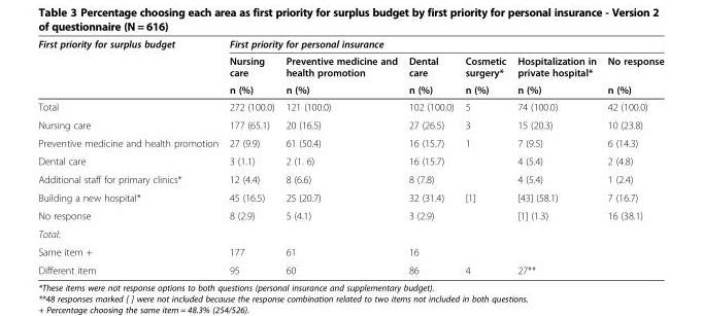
<table><thead><tr><td rowspan="3">First priority for surplus budget</td><td colspan="6">First priority for personal insurance</td></tr><tr><td rowspan="2">Nursing care n (%)</td><td rowspan="2">Preventive medicine and health promotion n (%)</td><td rowspan="2">Dental care n (%)</td><td rowspan="2">Cosmetic surgery* n (%)</td><td rowspan="2">Hospitalization in private hospital* n (%)</td><td rowspan="2">No response n (%)</td></tr><tr></tr></thead><tbody><tr><td>Total</td><td>272 (100.0)</td><td>121 (100.0)</td><td>102 (100.0)</td><td>5</td><td>74 (100.0)</td><td>42 (100.0)</td></tr><tr><td>Nursing care</td><td>177 (65.1)</td><td>20 (16.5)</td><td>27 (26.5)</td><td>3</td><td>15 (20.3)</td><td>10 (23.8)</td></tr><tr><td>Preventive medicine and health promotion</td><td>27 (9.9)</td><td>61 (50.4)</td><td>16 (15.7)</td><td>1</td><td>7 (9.5)</td><td>6 (14.3)</td></tr><tr><td>Dental care</td><td>3 (1.1)</td><td>2 (1. 6)</td><td>16 (15.7)</td><td></td><td>4 (5.4)</td><td>2 (4.8)</td></tr><tr><td>Additional staff for primary clinics*</td><td>12 (4.4)</td><td>8 (6.6)</td><td>8 (7.8)</td><td></td><td>4 (5.4)</td><td>1 (2.4)</td></tr><tr><td>Building a new hospital*</td><td>45 (16.5)</td><td>25 (20.7)</td><td>32 (31.4)</td><td>[1]</td><td>[43] (58.1)</td><td>7 (16.7)</td></tr><tr><td>No response</td><td>8 (2.9)</td><td>5 (4.1)</td><td>3 (2.9)</td><td></td><td>[1] (1.3)</td><td>16 (38.1)</td></tr><tr><td colspan="7">Total:</td></tr><tr><td>Same item +</td><td>177</td><td>61</td><td>16</td><td></td><td></td><td></td></tr><tr><td>Different item</td><td>95</td><td>60</td><td>86</td><td>4</td><td>27**</td><td></td></tr></tbody></table>